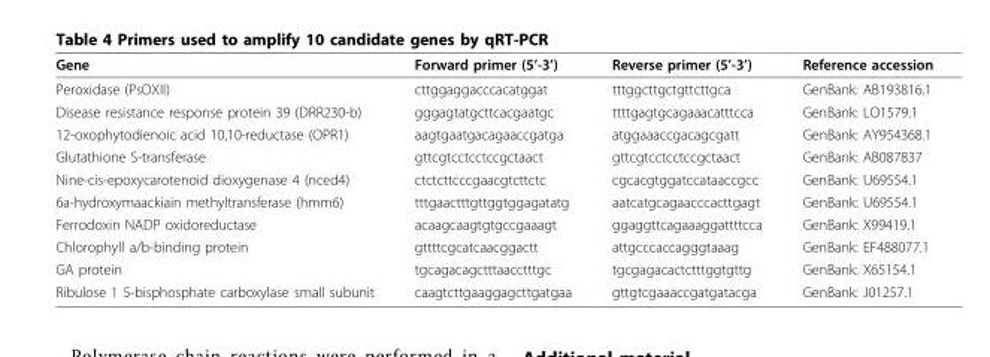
<table><thead><tr><td>Gene</td><td>Forward primer (5’-3’)</td><td>Reverse primer (5’-3’)</td><td>Reference accession</td></tr></thead><tbody><tr><td>Peroxidase (PsOXII)</td><td>cttggaggacccacatggat</td><td>tttggcttgctgttcttgca</td><td>GenBank: AB193816.1</td></tr><tr><td>Disease resistance response protein 39 (DRR230-b)</td><td>gggagtatgcttcacgaatgc</td><td>ttttgagtgcagaaacatttcca</td><td>GenBank: LO1579.1</td></tr><tr><td>12-oxophytodienoic acid 10,10-reductase (OPR1)</td><td>aagtgaatgacagaaccgatga</td><td>atggaaaccgacagcgatt</td><td>GenBank: AY954368.1</td></tr><tr><td>Glutathione S-transferase</td><td>gttcgtcctcctccgctaact</td><td>gttcgtcctcctccgctaact</td><td>GenBank: AB087837</td></tr><tr><td>Nine-cis-epoxycarotenoid dioxygenase 4 (nced4)</td><td>ctctcttcccgaacgtcttctc</td><td>cgcacgtggatccataaccgcc</td><td>GenBank: U69554.1</td></tr><tr><td>6a-hydroxymaackiain methyltransferase (hmm6)</td><td>tttgaactttgttggtggagatatg</td><td>aatcatgcagaacccacttgagt</td><td>GenBank: U69554.1</td></tr><tr><td>Ferrodoxin NADP oxidoreductase</td><td>acaagcaagtgtgccgaaagt</td><td>ggaggttcagaaaggattttcca</td><td>GenBank: X99419.1</td></tr><tr><td>Chlorophyll a/b-binding protein</td><td>gttttcgcatcaacggactt</td><td>attgcccaccagggtaaag</td><td>GenBank: EF488077.1</td></tr><tr><td>GA protein</td><td>tgcagacagctttaacctttgc</td><td>tgcgagacactctttggtgttg</td><td>GenBank: X65154.1</td></tr><tr><td>Ribulose 1 5-bisphosphate carboxylase small subunit</td><td>caagtcttgaaggagcttgatgaa</td><td>gttgtcgaaaccgatgatacga</td><td>GenBank: J01257.1</td></tr></tbody></table>